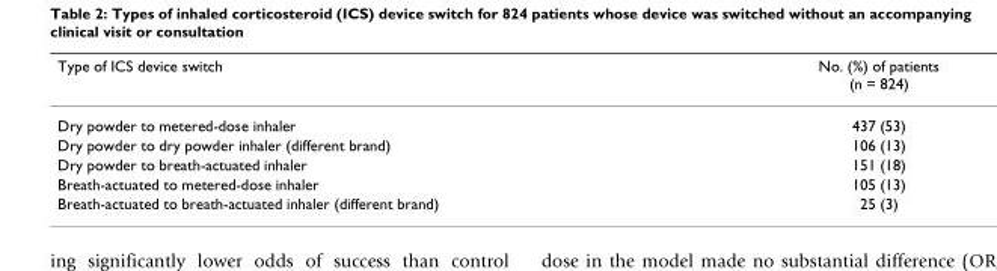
<table><thead><tr><td>Type of ICS device switch</td><td>No. (%) of patients (n = 824)</td></tr></thead><tbody><tr><td>Dry powder to metered-dose inhaler</td><td>437 (53)</td></tr><tr><td>Dry powder to dry powder inhaler (different brand)</td><td>106 (13)</td></tr><tr><td>Dry powder to breath-actuated inhaler</td><td>151 (18)</td></tr><tr><td>Breath-actuated to metered-dose inhaler</td><td>105 (13)</td></tr><tr><td>Breath-actuated to breath-actuated inhaler (different brand)</td><td>25 (3)</td></tr></tbody></table>